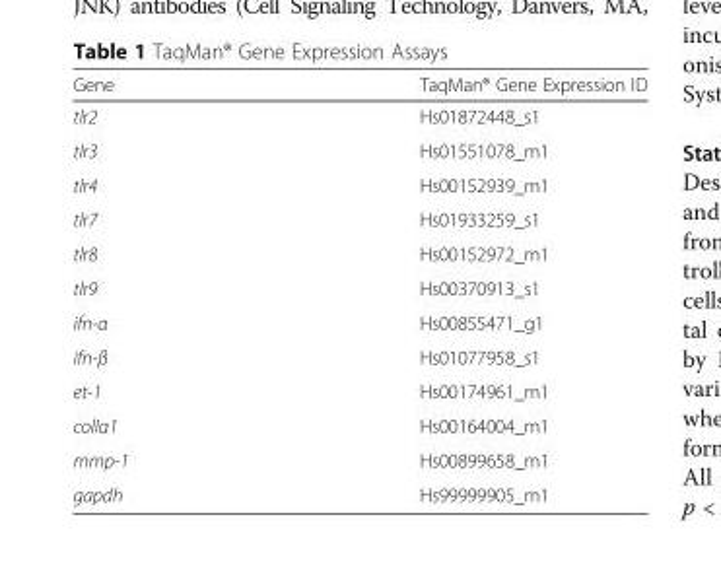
<table><thead><tr><td>Gene</td><td>TaqMan® Gene Expression ID</td></tr></thead><tbody><tr><td>tlr2</td><td>Hs01872448_s1</td></tr><tr><td>tlr3</td><td>Hs01551078_m1</td></tr><tr><td>tlr4</td><td>Hs00152939_m1</td></tr><tr><td>tlr7</td><td>Hs01933259_s1</td></tr><tr><td>tlr8</td><td>Hs00152972_m1</td></tr><tr><td>tlr9</td><td>Hs00370913_s1</td></tr><tr><td>ifn-α</td><td>Hs00855471_g1</td></tr><tr><td>ifn-β</td><td>Hs01077958_s1</td></tr><tr><td>et-1</td><td>Hs00174961_m1</td></tr><tr><td>colIα1</td><td>Hs00164004_m1</td></tr><tr><td>mmp-1</td><td>Hs00899658_m1</td></tr><tr><td>gapdh</td><td>Hs99999905_m1</td></tr></tbody></table>